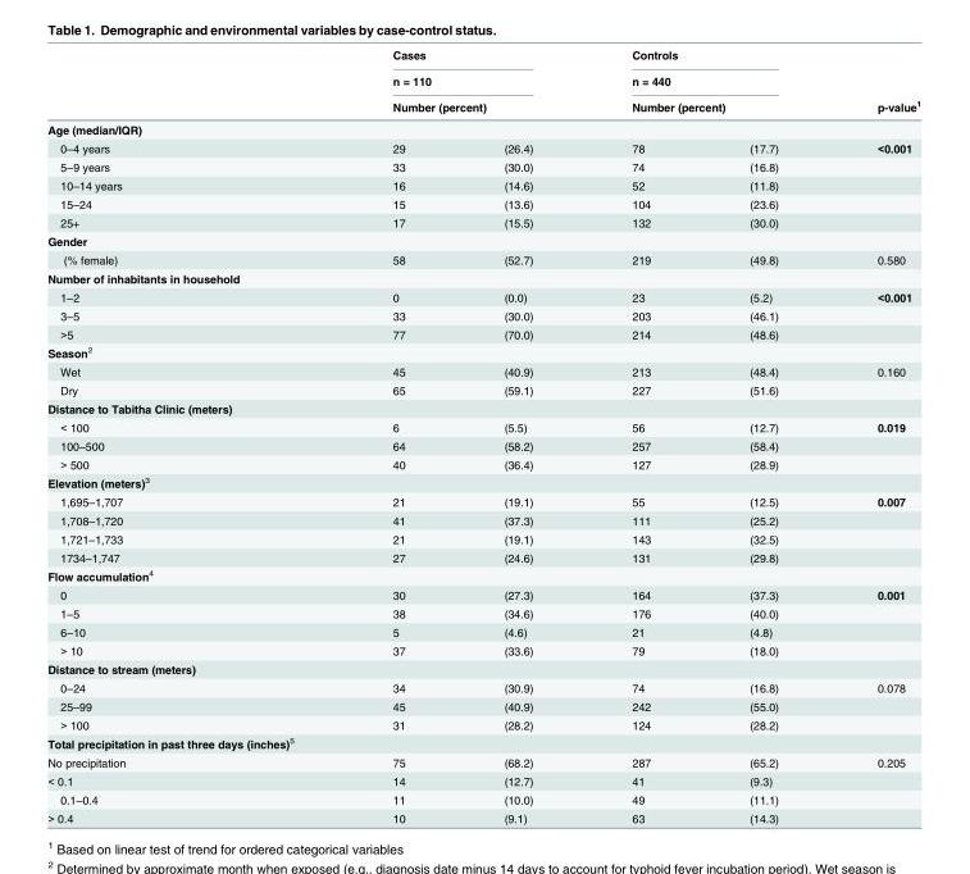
<table><thead><tr><td rowspan="4">Age (median/IQR)</td><td rowspan="3" colspan="2">Cases n = 110 Number (percent)</td><td rowspan="3" colspan="2">Controls n = 440 Number (percent)</td><td rowspan="4">p-value<sup>1</sup></td></tr><tr></tr><tr></tr><tr><td></td><td></td><td></td><td></td></tr></thead><tbody><tr><td>0–4 years</td><td>29</td><td>(26.4)</td><td>78</td><td>(17.7)</td><td>&lt;0.001</td></tr><tr><td>5–9 years</td><td>33</td><td>(30.0)</td><td>74</td><td>(16.8)</td><td></td></tr><tr><td>10–14 years</td><td>16</td><td>(14.6)</td><td>52</td><td>(11.8)</td><td></td></tr><tr><td>15–24</td><td>15</td><td>(13.6)</td><td>104</td><td>(23.6)</td><td></td></tr><tr><td>25+</td><td>17</td><td>(15.5)</td><td>132</td><td>(30.0)</td><td></td></tr><tr><td colspan="6">Gender</td></tr><tr><td>(% female)</td><td>58</td><td>(52.7)</td><td>219</td><td>(49.8)</td><td>0.580</td></tr><tr><td colspan="6">Number of inhabitants in household</td></tr><tr><td>1–2</td><td>0</td><td>(0.0)</td><td>23</td><td>(5.2)</td><td>&lt;0.001</td></tr><tr><td>3–5</td><td>33</td><td>(30.0)</td><td>203</td><td>(46.1)</td><td></td></tr><tr><td>&gt;5</td><td>77</td><td>(70.0)</td><td>214</td><td>(48.6)</td><td></td></tr><tr><td colspan="6">Season<sup>2</sup></td></tr><tr><td>Wet</td><td>45</td><td>(40.9)</td><td>213</td><td>(48.4)</td><td>0.160</td></tr><tr><td>Dry</td><td>65</td><td>(59.1)</td><td>227</td><td>(51.6)</td><td></td></tr><tr><td colspan="6">Distance to Tabitha Clinic (meters)</td></tr><tr><td>&lt; 100</td><td>6</td><td>(5.5)</td><td>56</td><td>(12.7)</td><td>0.019</td></tr><tr><td>100–500</td><td>64</td><td>(58.2)</td><td>257</td><td>(58.4)</td><td></td></tr><tr><td>&gt; 500</td><td>40</td><td>(36.4)</td><td>127</td><td>(28.9)</td><td></td></tr><tr><td colspan="6">Elevation (meters)<sup>3</sup></td></tr><tr><td>1,695–1,707</td><td>21</td><td>(19.1)</td><td>55</td><td>(12.5)</td><td>0.007</td></tr><tr><td>1,708–1,720</td><td>41</td><td>(37.3)</td><td>111</td><td>(25.2)</td><td></td></tr><tr><td>1,721–1,733</td><td>21</td><td>(19.1)</td><td>143</td><td>(32.5)</td><td></td></tr><tr><td>1734–1,747</td><td>27</td><td>(24.6)</td><td>131</td><td>(29.8)</td><td></td></tr><tr><td colspan="6">Flow accumulation<sup>4</sup></td></tr><tr><td>0</td><td>30</td><td>(27.3)</td><td>164</td><td>(37.3)</td><td>0.001</td></tr><tr><td>1–5</td><td>38</td><td>(34.6)</td><td>176</td><td>(40.0)</td><td></td></tr><tr><td>6–10</td><td>5</td><td>(4.6)</td><td>21</td><td>(4.8)</td><td></td></tr><tr><td>&gt; 10</td><td>37</td><td>(33.6)</td><td>79</td><td>(18.0)</td><td></td></tr><tr><td colspan="6">Distance to stream (meters)</td></tr><tr><td>0–24</td><td>34</td><td>(30.9)</td><td>74</td><td>(16.8)</td><td>0.078</td></tr><tr><td>25–99</td><td>45</td><td>(40.9)</td><td>242</td><td>(55.0)</td><td></td></tr><tr><td>&gt; 100</td><td>31</td><td>(28.2)</td><td>124</td><td>(28.2)</td><td></td></tr><tr><td colspan="6">Total precipitation in past three days (inches)<sup>5</sup></td></tr><tr><td>No precipitation</td><td>75</td><td>(68.2)</td><td>287</td><td>(65.2)</td><td>0.205</td></tr><tr><td>&lt; 0.1</td><td>14</td><td>(12.7)</td><td>41</td><td>(9.3)</td><td></td></tr><tr><td>0.1–0.4</td><td>11</td><td>(10.0)</td><td>49</td><td>(11.1)</td><td></td></tr><tr><td>&gt; 0.4</td><td>10</td><td>(9.1)</td><td>63</td><td>(14.3)</td><td></td></tr></tbody></table>